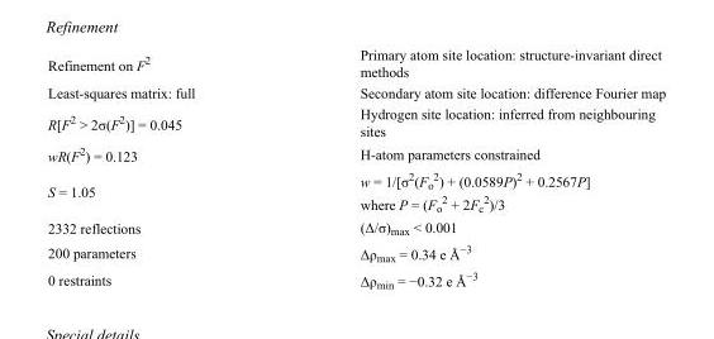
<table><tbody><tr><td>Refinement on F<sup>2</sup></td><td>Primary atom site location: structure-invariant direct methods</td></tr><tr><td>Least-squares matrix: full</td><td>Secondary atom site location: difference Fourier map</td></tr><tr><td>R[F<sup>2</sup> &gt; 2σ(F<sup>2</sup>)] = 0.045</td><td>Hydrogen site location: inferred from neighbouring sites</td></tr><tr><td>wR(F<sup>2</sup>) = 0.123</td><td>H-atom parameters constrained</td></tr><tr><td>S = 1.05</td><td>w = 1/[σ<sup>2</sup>(F<sub>o</sub> <sup>2</sup>) + (0.0589P)<sup>2</sup> + 0.2567P] where P = (F<sub>o</sub> <sup>2</sup> + 2F<sub>c</sub> <sup>2</sup>)/3</td></tr><tr><td>2332 reflections</td><td>(Δ/σ)<sub>max</sub> &lt; 0.001</td></tr><tr><td>200 parameters</td><td>Δρ<sub>max</sub> = 0.34 e Å<sup>−3</sup></td></tr><tr><td>0 restraints</td><td>Δρ<sub>min</sub> = −0.32 e Å<sup>−3</sup></td></tr></tbody></table>